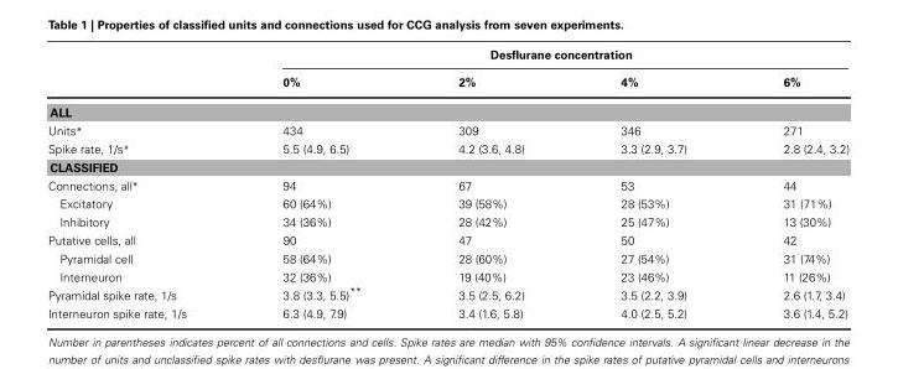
<table><thead><tr><td rowspan="2"></td><td colspan="4">Desflurane concentration</td></tr><tr><td>0%</td><td>2%</td><td>4%</td><td>6%</td></tr></thead><tbody><tr><td colspan="5">ALL</td></tr><tr><td>Units*</td><td>434</td><td>309</td><td>346</td><td>271</td></tr><tr><td>Spike rate, 1/s*</td><td>5.5 (4.9, 6.5)</td><td>4.2 (3.6, 4.8)</td><td>3.3 (2.9, 3.7)</td><td>2.8 (2.4, 3.2)</td></tr><tr><td colspan="5">CLASSIFIED</td></tr><tr><td>Connections, all*</td><td>94</td><td>67</td><td>53</td><td>44</td></tr><tr><td>Excitatory</td><td>60 (64%)</td><td>39 (58%)</td><td>28 (53%)</td><td>31 (71%)</td></tr><tr><td>Inhibitory</td><td>34 (36%)</td><td>28 (42%)</td><td>25 (47%)</td><td>13 (30%)</td></tr><tr><td>Putative cells, all</td><td>90</td><td>47</td><td>50</td><td>42</td></tr><tr><td>Pyramidal cell</td><td>58 (64%)</td><td>28 (60%)</td><td>27 (54%)</td><td>31 (74%)</td></tr><tr><td>Interneuron</td><td>32 (36%)</td><td>19 (40%)</td><td>23 (46%)</td><td>11 (26%)</td></tr><tr><td>Pyramidal spike rate, 1/s</td><td>3.8 (3.3, 5.5)**</td><td>3.5 (2.5, 6.2)</td><td>3.5 (2.2, 3.9)</td><td>2.6 (1.7, 3.4)</td></tr><tr><td>Interneuron spike rate, 1/s</td><td>6.3 (4.9, 7.9)</td><td>3.4 (1.6, 5.8)</td><td>4.0 (2.5, 5.2)</td><td>3.6 (1.4, 5.2)</td></tr></tbody></table>